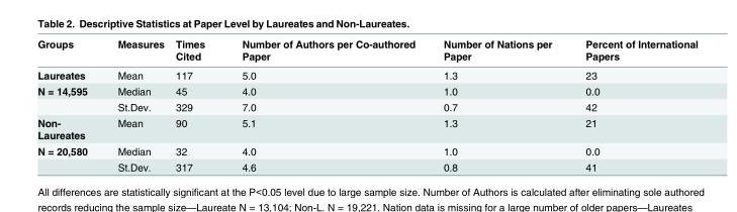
<table><thead><tr><td>Groups</td><td>Measures</td><td>Times Cited</td><td>Number of Authors per Co-authored Paper</td><td>Number of Nations per Paper</td><td>Percent of International Papers</td></tr></thead><tbody><tr><td>Laureates</td><td>Mean</td><td>117</td><td>5.0</td><td>1.3</td><td>23</td></tr><tr><td rowspan="2">N = 14,595</td><td>Median</td><td>45</td><td>4.0</td><td>1.0</td><td>0.0</td></tr><tr><td>St.Dev.</td><td>329</td><td>7.0</td><td>0.7</td><td>42</td></tr><tr><td>Non- Laureates</td><td>Mean</td><td>90</td><td>5.1</td><td>1.3</td><td>21</td></tr><tr><td rowspan="2">N = 20,580</td><td>Median</td><td>32</td><td>4.0</td><td>1.0</td><td>0.0</td></tr><tr><td>St.Dev.</td><td>317</td><td>4.6</td><td>0.8</td><td>41</td></tr></tbody></table>